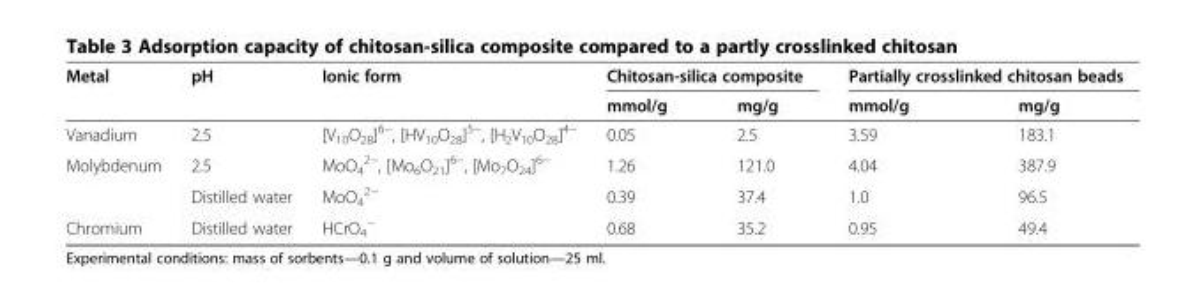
<table><thead><tr><td rowspan="2">Metal</td><td rowspan="2">pH</td><td rowspan="2">Ionic form</td><td colspan="2">Chitosan-silica composite</td><td colspan="2">Partially crosslinked chitosan beads</td></tr><tr><td>mmol/g</td><td>mg/g</td><td>mmol/g</td><td>mg/g</td></tr></thead><tbody><tr><td>Vanadium</td><td>2.5</td><td>[V<sub>10</sub>О<sub>28</sub>]<sup>6−</sup>, [НV<sub>10</sub>О<sub>28</sub>]<sup>5−</sup>, [Н<sub>2</sub>V<sub>10</sub>О<sub>28</sub>]<sup>4−</sup></td><td>0.05</td><td>2.5</td><td>3.59</td><td>183.1</td></tr><tr><td rowspan="2">Molybdenum</td><td>2.5</td><td>MoO<sub>4</sub> <sup>2−</sup>, [Mo<sub>6</sub>O<sub>21</sub>]<sup>6−</sup>, [Mo<sub>7</sub>O<sub>24</sub>]<sup>6−</sup></td><td>1.26</td><td>121.0</td><td>4.04</td><td>387.9</td></tr><tr><td>Distilled water</td><td>МоО<sub>4</sub> <sup>2−</sup></td><td>0.39</td><td>37.4</td><td>1.0</td><td>96.5</td></tr><tr><td>Chromium</td><td>Distilled water</td><td>НCrO<sub>4</sub> <sup>−</sup></td><td>0.68</td><td>35.2</td><td>0.95</td><td>49.4</td></tr></tbody></table>